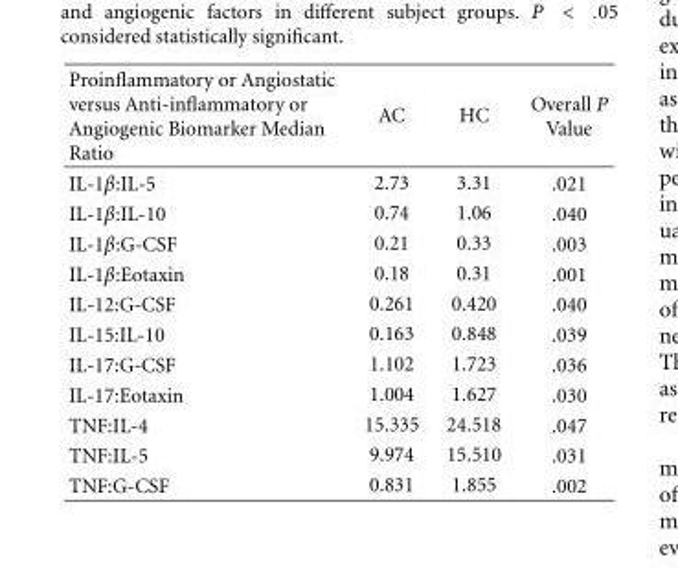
<table><thead><tr><td>Proinflammatory or Angiostatic versus Anti-inflammatory or Angiogenic Biomarker Median Ratio</td><td>AC</td><td>HC</td><td>Overall P Value</td></tr></thead><tbody><tr><td>IL-1β:IL-5</td><td>2.73</td><td>3.31</td><td>.021</td></tr><tr><td>IL-1β:IL-10</td><td>0.74</td><td>1.06</td><td>.040</td></tr><tr><td>IL-1β:G-CSF</td><td>0.21</td><td>0.33</td><td>.003</td></tr><tr><td>IL-1β:Eotaxin</td><td>0.18</td><td>0.31</td><td>.001</td></tr><tr><td>IL-12:G-CSF</td><td>0.261</td><td>0.420</td><td>.040</td></tr><tr><td>IL-15:IL-10</td><td>0.163</td><td>0.848</td><td>.039</td></tr><tr><td>IL-17:G-CSF</td><td>1.102</td><td>1.723</td><td>.036</td></tr><tr><td>IL-17:Eotaxin</td><td>1.004</td><td>1.627</td><td>.030</td></tr><tr><td>TNF:IL-4</td><td>15.335</td><td>24.518</td><td>.047</td></tr><tr><td>TNF:IL-5</td><td>9.974</td><td>15.510</td><td>.031</td></tr><tr><td>TNF:G-CSF</td><td>0.831</td><td>1.855</td><td>.002</td></tr></tbody></table>